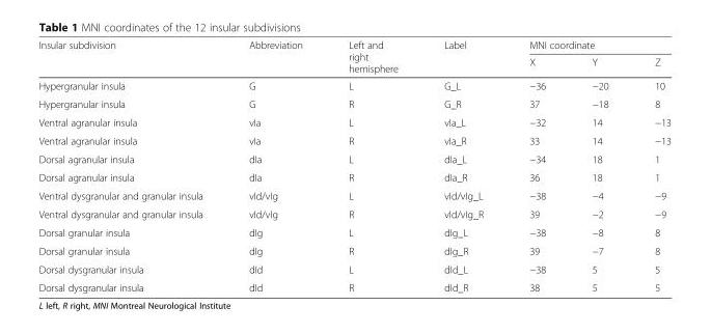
<table><thead><tr><td rowspan="2">Insular subdivision</td><td rowspan="2">Abbreviation</td><td rowspan="2">Left and right hemisphere</td><td rowspan="2">Label</td><td colspan="3">MNI coordinate</td></tr><tr><td>X</td><td>Y</td><td>Z</td></tr></thead><tbody><tr><td>Hypergranular insula</td><td>G</td><td>L</td><td>G_L</td><td>−36</td><td>−20</td><td>10</td></tr><tr><td>Hypergranular insula</td><td>G</td><td>R</td><td>G_R</td><td>37</td><td>−18</td><td>8</td></tr><tr><td>Ventral agranular insula</td><td>vIa</td><td>L</td><td>vIa_L</td><td>−32</td><td>14</td><td>−13</td></tr><tr><td>Ventral agranular insula</td><td>vIa</td><td>R</td><td>vIa_R</td><td>33</td><td>14</td><td>−13</td></tr><tr><td>Dorsal agranular insula</td><td>dIa</td><td>L</td><td>dIa_L</td><td>−34</td><td>18</td><td>1</td></tr><tr><td>Dorsal agranular insula</td><td>dIa</td><td>R</td><td>dIa_R</td><td>36</td><td>18</td><td>1</td></tr><tr><td>Ventral dysgranular and granular insula</td><td>vId/vIg</td><td>L</td><td>vId/vIg_L</td><td>−38</td><td>−4</td><td>−9</td></tr><tr><td>Ventral dysgranular and granular insula</td><td>vId/vIg</td><td>R</td><td>vId/vIg_R</td><td>39</td><td>−2</td><td>−9</td></tr><tr><td>Dorsal granular insula</td><td>dIg</td><td>L</td><td>dIg_L</td><td>−38</td><td>−8</td><td>8</td></tr><tr><td>Dorsal granular insula</td><td>dIg</td><td>R</td><td>dIg_R</td><td>39</td><td>−7</td><td>8</td></tr><tr><td>Dorsal dysgranular insula</td><td>dId</td><td>L</td><td>dId_L</td><td>−38</td><td>5</td><td>5</td></tr><tr><td>Dorsal dysgranular insula</td><td>dId</td><td>R</td><td>dId_R</td><td>38</td><td>5</td><td>5</td></tr></tbody></table>